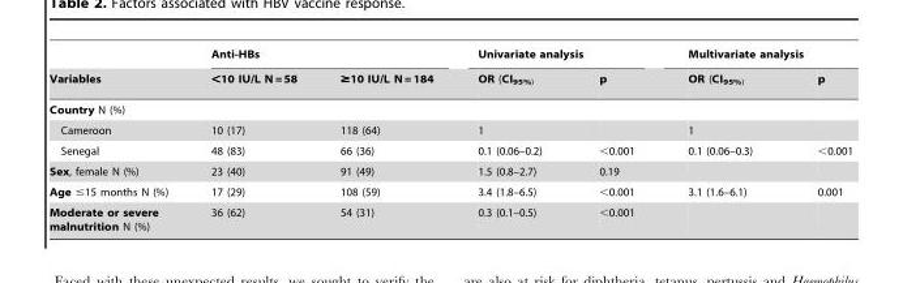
<table><thead><tr><td rowspan="2">Variables</td><td colspan="2">Anti-HBs</td><td colspan="2">Univariate analysis</td><td colspan="2">Multivariate analysis</td></tr><tr><td>&lt;10 IU/L N = 58</td><td>≥10 IU/L N = 184</td><td>OR (CI<sub>95%)</sub></td><td>p</td><td>OR (CI<sub>95%)</sub></td><td>p</td></tr></thead><tbody><tr><td colspan="7">Country N (%)</td></tr><tr><td>Cameroon</td><td>10 (17)</td><td>118 (64)</td><td>1</td><td></td><td>1</td><td></td></tr><tr><td>Senegal</td><td>48 (83)</td><td>66 (36)</td><td>0.1 (0.06–0.2)</td><td>&lt;0.001</td><td>0.1 (0.06–0.3)</td><td>&lt;0.001</td></tr><tr><td>Sex, female N (%)</td><td>23 (40)</td><td>91 (49)</td><td>1.5 (0.8–2.7)</td><td>0.19</td><td></td><td></td></tr><tr><td>Age ≤15 months N (%)</td><td>17 (29)</td><td>108 (59)</td><td>3.4 (1.8–6.5)</td><td>&lt;0.001</td><td>3.1 (1.6–6.1)</td><td>0.001</td></tr><tr><td>Moderate or severe malnutrition N (%)</td><td>36 (62)</td><td>54 (31)</td><td>0.3 (0.1–0.5)</td><td>&lt;0.001</td><td></td><td></td></tr></tbody></table>